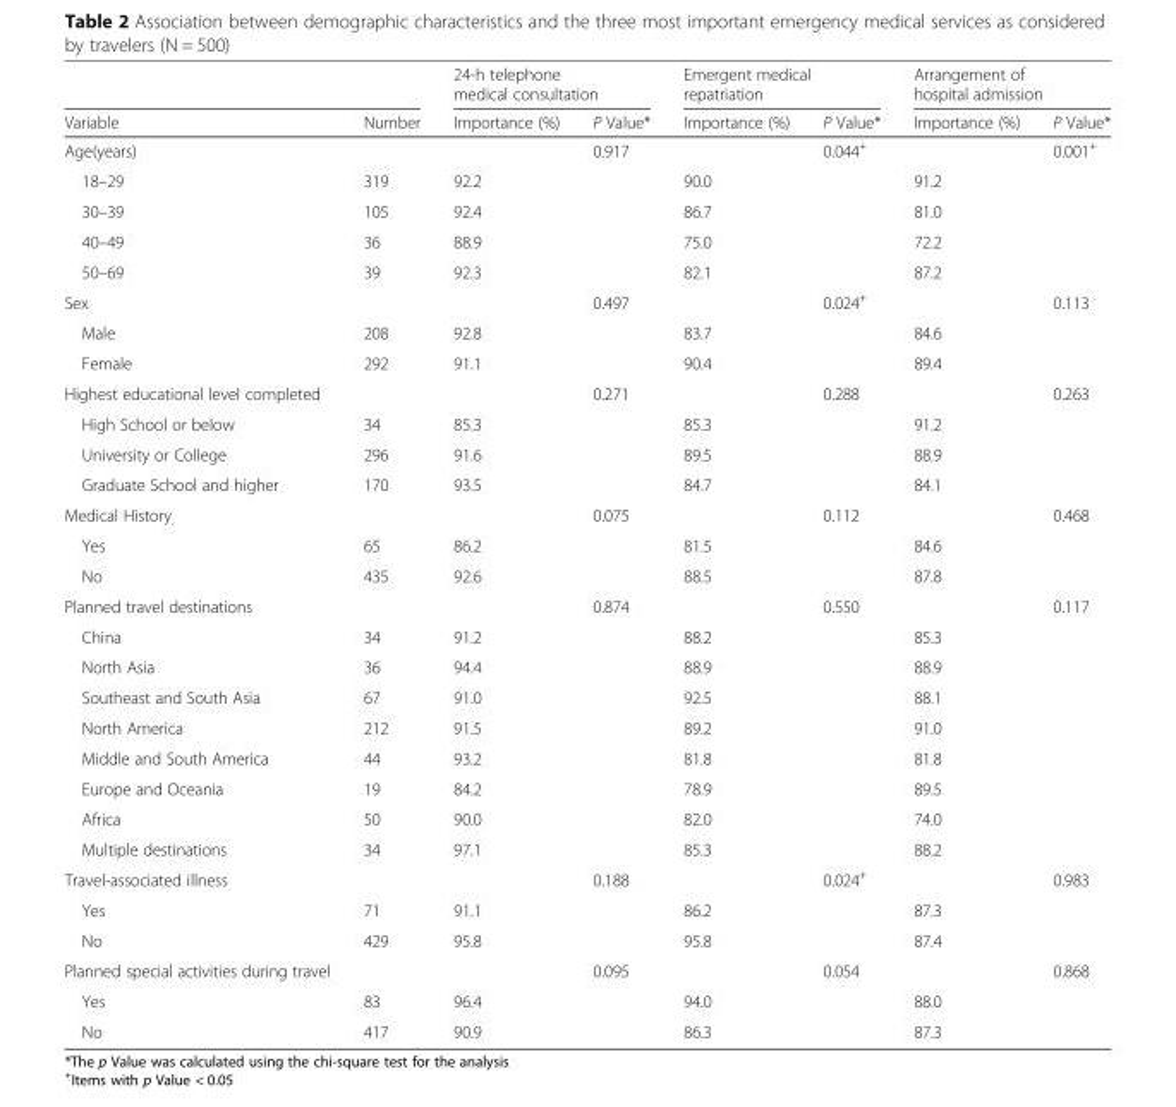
<table><thead><tr><td rowspan="2">Variable</td><td rowspan="2">Number</td><td colspan="2">24-h telephone medical consultation</td><td colspan="2">Emergent medical repatriation</td><td colspan="2">Arrangement of hospital admission</td></tr><tr><td>Importance (%)</td><td>P Value*</td><td>Importance (%)</td><td>P Value*</td><td>Importance (%)</td><td>P Value*</td></tr></thead><tbody><tr><td>Age(years)</td><td></td><td></td><td>0.917</td><td></td><td>0.044<sup>+</sup></td><td></td><td>0.001<sup>+</sup></td></tr><tr><td>18–29</td><td>319</td><td>92.2</td><td></td><td>90.0</td><td></td><td>91.2</td><td></td></tr><tr><td>30–39</td><td>105</td><td>92.4</td><td></td><td>86.7</td><td></td><td>81.0</td><td></td></tr><tr><td>40–49</td><td>36</td><td>88.9</td><td></td><td>75.0</td><td></td><td>72.2</td><td></td></tr><tr><td>50–69</td><td>39</td><td>92.3</td><td></td><td>82.1</td><td></td><td>87.2</td><td></td></tr><tr><td>Sex</td><td></td><td></td><td>0.497</td><td></td><td>0.024<sup>+</sup></td><td></td><td>0.113</td></tr><tr><td>Male</td><td>208</td><td>92.8</td><td></td><td>83.7</td><td></td><td>84.6</td><td></td></tr><tr><td>Female</td><td>292</td><td>91.1</td><td></td><td>90.4</td><td></td><td>89.4</td><td></td></tr><tr><td>Highest educational level completed</td><td></td><td></td><td>0.271</td><td></td><td>0.288</td><td></td><td>0.263</td></tr><tr><td>High School or below</td><td>34</td><td>85.3</td><td></td><td>85.3</td><td></td><td>91.2</td><td></td></tr><tr><td>University or College</td><td>296</td><td>91.6</td><td></td><td>89.5</td><td></td><td>88.9</td><td></td></tr><tr><td>Graduate School and higher</td><td>170</td><td>93.5</td><td></td><td>84.7</td><td></td><td>84.1</td><td></td></tr><tr><td>Medical History</td><td></td><td></td><td>0.075</td><td></td><td>0.112</td><td></td><td>0.468</td></tr><tr><td>Yes</td><td>65</td><td>86.2</td><td></td><td>81.5</td><td></td><td>84.6</td><td></td></tr><tr><td>No</td><td>435</td><td>92.6</td><td></td><td>88.5</td><td></td><td>87.8</td><td></td></tr><tr><td>Planned travel destinations</td><td></td><td></td><td>0.874</td><td></td><td>0.550</td><td></td><td>0.117</td></tr><tr><td>China</td><td>34</td><td>91.2</td><td></td><td>88.2</td><td></td><td>85.3</td><td></td></tr><tr><td>North Asia</td><td>36</td><td>94.4</td><td></td><td>88.9</td><td></td><td>88.9</td><td></td></tr><tr><td>Southeast and South Asia</td><td>67</td><td>91.0</td><td></td><td>92.5</td><td></td><td>88.1</td><td></td></tr><tr><td>North America</td><td>212</td><td>91.5</td><td></td><td>89.2</td><td></td><td>91.0</td><td></td></tr><tr><td>Middle and South America</td><td>44</td><td>93.2</td><td></td><td>81.8</td><td></td><td>81.8</td><td></td></tr><tr><td>Europe and Oceania</td><td>19</td><td>84.2</td><td></td><td>78.9</td><td></td><td>89.5</td><td></td></tr><tr><td>Africa</td><td>50</td><td>90.0</td><td></td><td>82.0</td><td></td><td>74.0</td><td></td></tr><tr><td>Multiple destinations</td><td>34</td><td>97.1</td><td></td><td>85.3</td><td></td><td>88.2</td><td></td></tr><tr><td>Travel-associated illness</td><td></td><td></td><td>0.188</td><td></td><td>0.024<sup>+</sup></td><td></td><td>0.983</td></tr><tr><td>Yes</td><td>71</td><td>91.1</td><td></td><td>86.2</td><td></td><td>87.3</td><td></td></tr><tr><td>No</td><td>429</td><td>95.8</td><td></td><td>95.8</td><td></td><td>87.4</td><td></td></tr><tr><td>Planned special activities during travel</td><td></td><td></td><td>0.095</td><td></td><td>0.054</td><td></td><td>0.868</td></tr><tr><td>Yes</td><td>83</td><td>96.4</td><td></td><td>94.0</td><td></td><td>88.0</td><td></td></tr><tr><td>No</td><td>417</td><td>90.9</td><td></td><td>86.3</td><td></td><td>87.3</td><td></td></tr></tbody></table>